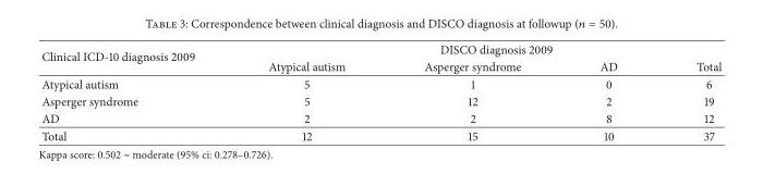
<table><thead><tr><td rowspan="2">Clinical ICD-10 diagnosis 2009</td><td colspan="4">DISCO diagnosis 2009</td></tr><tr><td>Atypical autism</td><td>Asperger syndrome</td><td>AD</td><td>Total</td></tr></thead><tbody><tr><td>Atypical autism</td><td>5</td><td>1</td><td>0</td><td>6</td></tr><tr><td>Asperger syndrome</td><td>5</td><td>12</td><td>2</td><td>19</td></tr><tr><td>AD</td><td>2</td><td>2</td><td>8</td><td>12</td></tr><tr><td>Total</td><td>12</td><td>15</td><td>10</td><td>37</td></tr></tbody></table>